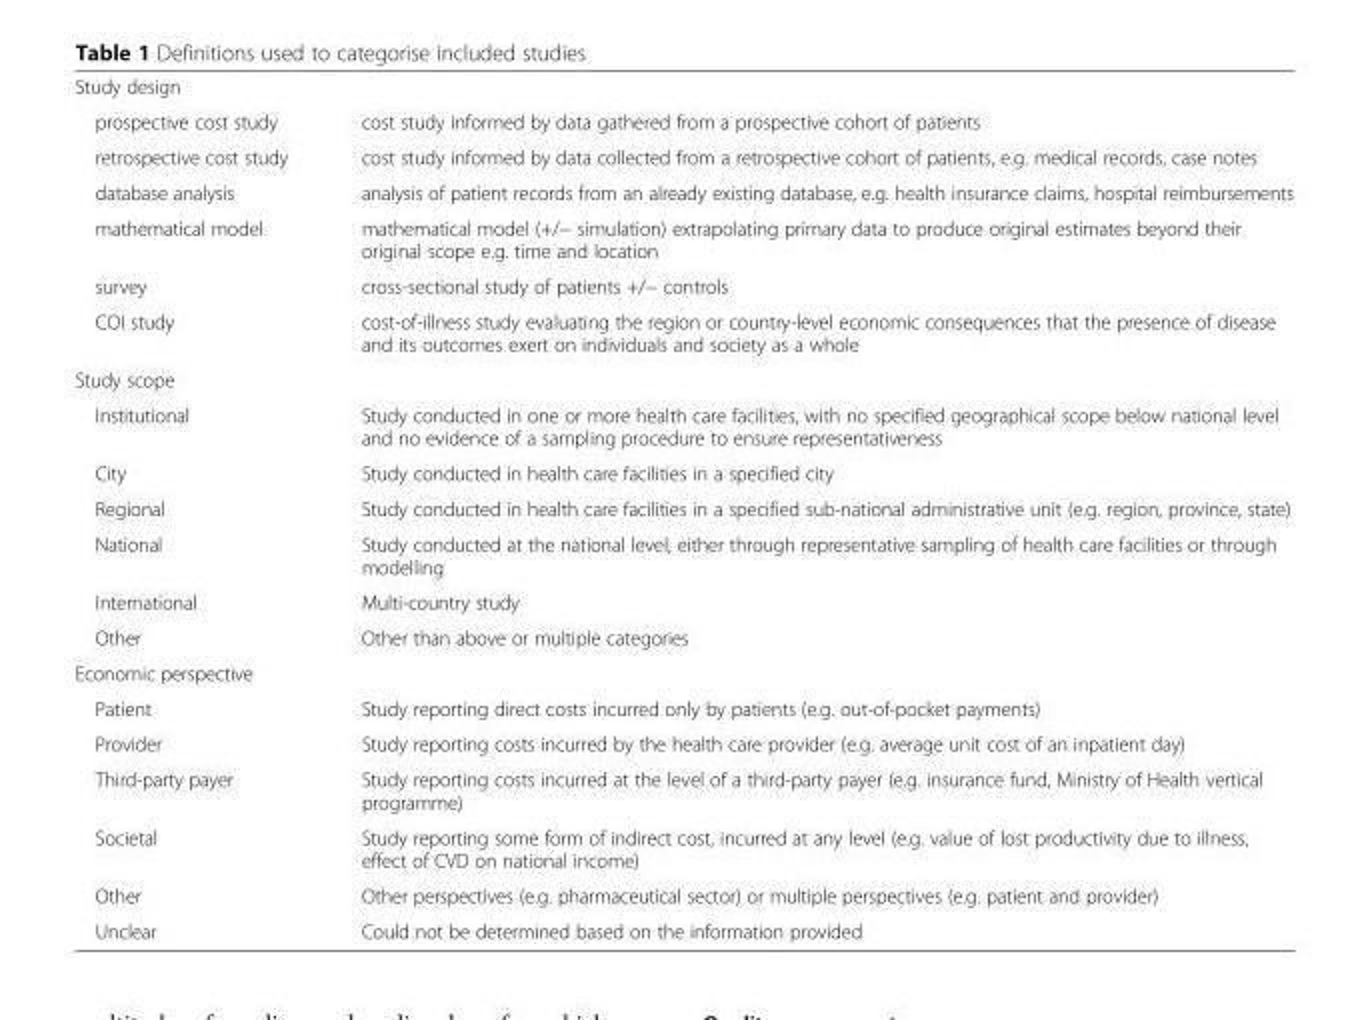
<table><tbody><tr><td colspan="2">Study design</td></tr><tr><td>prospective cost study</td><td>cost study informed by data gathered from a prospective cohort of patients</td></tr><tr><td>retrospective cost study</td><td>cost study informed by data collected from a retrospective cohort of patients, e.g. medical records, case notes</td></tr><tr><td>database analysis</td><td>analysis of patient records from an already existing database, e.g. health insurance claims, hospital reimbursements</td></tr><tr><td>mathematical model</td><td>mathematical model (+/− simulation) extrapolating primary data to produce original estimates beyond their original scope e.g. time and location</td></tr><tr><td>survey</td><td>cross-sectional study of patients +/− controls</td></tr><tr><td>COI study</td><td>cost-of-illness study evaluating the region or country-level economic consequences that the presence of disease and its outcomes exert on individuals and society as a whole</td></tr><tr><td colspan="2">Study scope</td></tr><tr><td>Institutional</td><td>Study conducted in one or more health care facilities, with no specified geographical scope below national level and no evidence of a sampling procedure to ensure representativeness</td></tr><tr><td>City</td><td>Study conducted in health care facilities in a specified city</td></tr><tr><td>Regional</td><td>Study conducted in health care facilities in a specified sub-national administrative unit (e.g. region, province, state)</td></tr><tr><td>National</td><td>Study conducted at the national level, either through representative sampling of health care facilities or through modelling</td></tr><tr><td>International</td><td>Multi-country study</td></tr><tr><td>Other</td><td>Other than above or multiple categories</td></tr><tr><td colspan="2">Economic perspective</td></tr><tr><td>Patient</td><td>Study reporting direct costs incurred only by patients (e.g. out-of-pocket payments)</td></tr><tr><td>Provider</td><td>Study reporting costs incurred by the health care provider (e.g. average unit cost of an inpatient day)</td></tr><tr><td>Third-party payer</td><td>Study reporting costs incurred at the level of a third-party payer (e.g. insurance fund, Ministry of Health vertical programme)</td></tr><tr><td>Societal</td><td>Study reporting some form of indirect cost, incurred at any level (e.g. value of lost productivity due to illness, effect of CVD on national income)</td></tr><tr><td>Other</td><td>Other perspectives (e.g. pharmaceutical sector) or multiple perspectives (e.g. patient and provider)</td></tr><tr><td>Unclear</td><td>Could not be determined based on the information provided</td></tr></tbody></table>